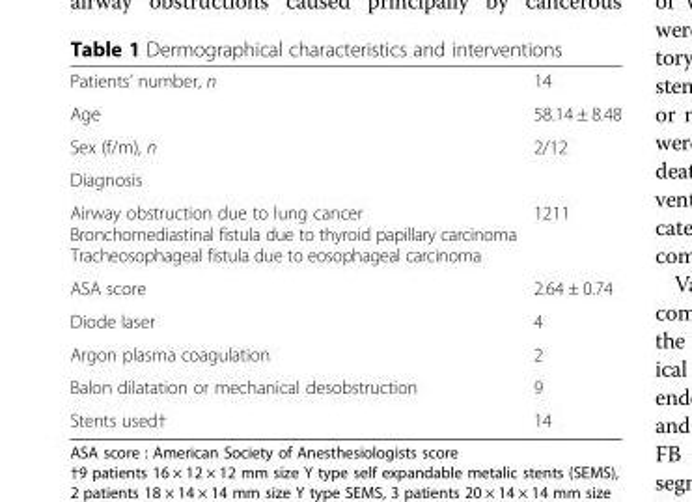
<table><tbody><tr><td>Patients’ number, n</td><td>14</td></tr><tr><td>Age</td><td>58.14 ± 8.48</td></tr><tr><td>Sex (f/m), n</td><td>2/12</td></tr><tr><td colspan="2">Diagnosis</td></tr><tr><td>Airway obstruction due to lung cancer Bronchomediastinal fistula due to thyroid papillary carcinoma Tracheosophageal fistula due to eosophageal carcinoma</td><td>1211</td></tr><tr><td>ASA score</td><td>2.64 ± 0.74</td></tr><tr><td>Diode laser</td><td>4</td></tr><tr><td>Argon plasma coagulation</td><td>2</td></tr><tr><td>Balon dilatation or mechanical desobstruction</td><td>9</td></tr><tr><td>Stents used†</td><td>14</td></tr></tbody></table>